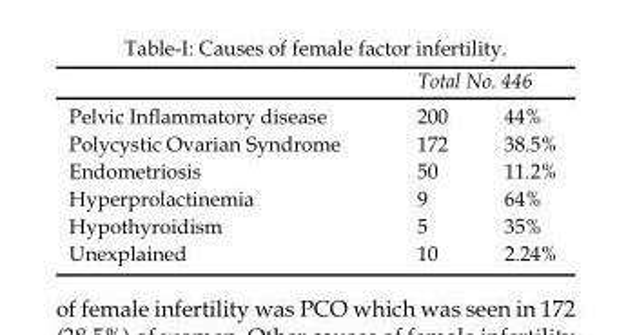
<table><thead><tr><td rowspan="2">Pelvic Inflammatory disease</td><td colspan="2">Total No. 446</td></tr><tr><td>200</td><td>44%</td></tr></thead><tbody><tr><td>Polycystic Ovarian Syndrome</td><td>172</td><td>38.5%</td></tr><tr><td>Endometriosis</td><td>50</td><td>11.2%</td></tr><tr><td>Hyperprolactinemia</td><td>9</td><td>64%</td></tr><tr><td>Hypothyroidism</td><td>5</td><td>35%</td></tr><tr><td>Unexplained</td><td>10</td><td>2.24%</td></tr></tbody></table>